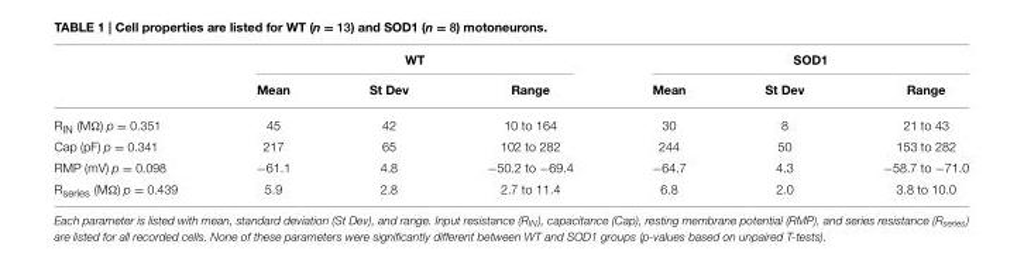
<table><thead><tr><td rowspan="2"></td><td colspan="3">WT</td><td colspan="3">SOD1</td></tr><tr><td>Mean</td><td>St Dev</td><td>Range</td><td>Mean</td><td>St Dev</td><td>Range</td></tr></thead><tbody><tr><td>R<sub>IN</sub> (MΩ) p = 0.351</td><td>45</td><td>42</td><td>10 to 164</td><td>30</td><td>8</td><td>21 to 43</td></tr><tr><td>Cap (pF) p = 0.341</td><td>217</td><td>65</td><td>102 to 282</td><td>244</td><td>50</td><td>153 to 282</td></tr><tr><td>RMP (mV) p = 0.098</td><td>−61.1</td><td>4.8</td><td>−50.2 to −69.4</td><td>−64.7</td><td>4.3</td><td>−58.7 to −71.0</td></tr><tr><td>R<sub>series</sub> (MΩ) p = 0.439</td><td>5.9</td><td>2.8</td><td>2.7 to 11.4</td><td>6.8</td><td>2.0</td><td>3.8 to 10.0</td></tr></tbody></table>